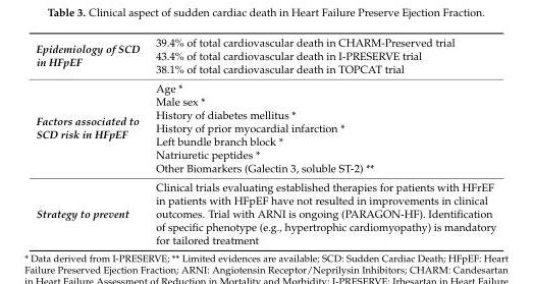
<table><tbody><tr><td rowspan="3">Epidemiology of SCD in HFpEF</td><td>39.4% of total cardiovascular death in CHARM-Preserved trial</td></tr><tr><td>43.4% of total cardiovascular death in I-PRESERVE trial</td></tr><tr><td>38.1% of total cardiovascular death in TOPCAT trial</td></tr><tr><td rowspan="7">Factors associated to SCD risk in HFpEF</td><td>Age *</td></tr><tr><td>Male sex *</td></tr><tr><td>History of diabetes mellitus *</td></tr><tr><td>History of prior myocardial infarction *</td></tr><tr><td>Left bundle branch block *</td></tr><tr><td>Natriuretic peptides *</td></tr><tr><td>Other Biomarkers (Galectin 3, soluble ST-2) **</td></tr><tr><td>Strategy to prevent</td><td>Clinical trials evaluating established therapies for patients with HFrEF in patients with HFpEF have not resulted in improvements in clinical outcomes. Trial with ARNI is ongoing (PARAGON-HF). Identification of specific phenotype (e.g., hypertrophic cardiomyopathy) is mandatory for tailored treatment</td></tr></tbody></table>